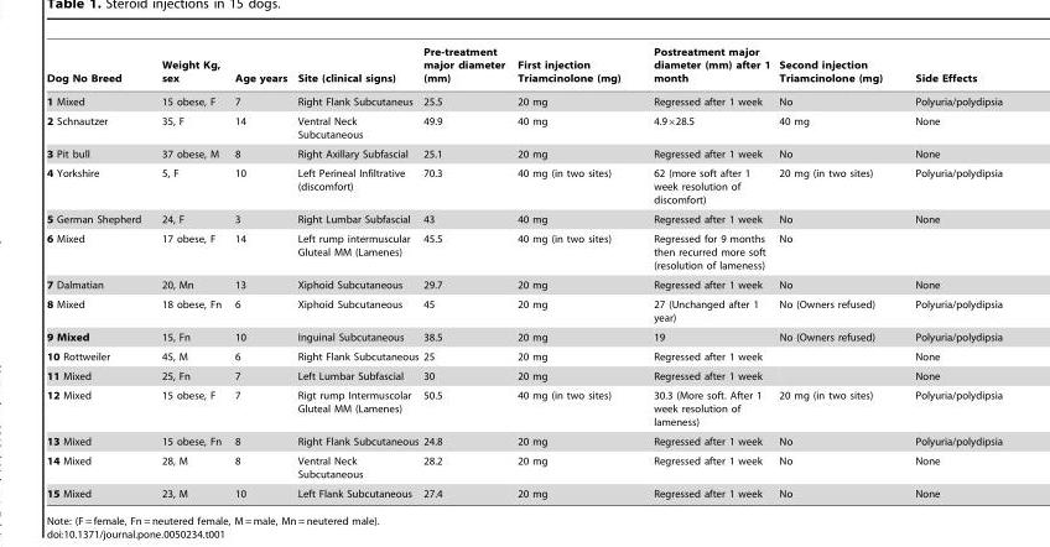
<table><thead><tr><td>Dog No Breed</td><td>Weight Kg, sex</td><td>Age years</td><td>Site (clinical signs)</td><td>Pre-treatment major diameter (mm)</td><td>First injection Triamcinolone (mg)</td><td>Postreatment major diameter (mm) after 1 month</td><td>Second injection Triamcinolone (mg)</td><td>Side Effects</td></tr></thead><tbody><tr><td>1 Mixed</td><td>15 obese, F</td><td>7</td><td>Right Flank Subcutaneus</td><td>25.5</td><td>20 mg</td><td>Regressed after 1 week</td><td>No</td><td>Polyuria/polydipsia</td></tr><tr><td>2 Schnautzer</td><td>35, F</td><td>14</td><td>Ventral Neck Subcutaneous</td><td>49.9</td><td>40 mg</td><td>4.9×28.5</td><td>40 mg</td><td>None</td></tr><tr><td>3 Pit bull</td><td>37 obese, M</td><td>8</td><td>Right Axillary Subfascial</td><td>25.1</td><td>20 mg</td><td>Regressed after 1 week</td><td>No</td><td>None</td></tr><tr><td>4 Yorkshire</td><td>5, F</td><td>10</td><td>Left Perineal Infiltrative (discomfort)</td><td>70.3</td><td>40 mg (in two sites)</td><td>62 (more soft after 1 week resolution of discomfort)</td><td>20 mg (in two sites)</td><td>Polyuria/polydipsia</td></tr><tr><td>5 German Shepherd</td><td>24, F</td><td>3</td><td>Right Lumbar Subfascial</td><td>43</td><td>40 mg</td><td>Regressed after 1 week</td><td>No</td><td>None</td></tr><tr><td>6 Mixed</td><td>17 obese, F</td><td>14</td><td>Left rump intermuscular Gluteal MM (Lamenes)</td><td>45.5</td><td>40 mg (in two sites)</td><td>Regressed for 9 months then recurred more soft (resolution of lameness)</td><td>No</td><td></td></tr><tr><td>7 Dalmatian</td><td>20, Mn</td><td>13</td><td>Xiphoid Subcutaneous</td><td>29.7</td><td>20 mg</td><td>Regressed after 1 week</td><td>No</td><td>None</td></tr><tr><td>8 Mixed</td><td>18 obese, Fn</td><td>6</td><td>Xiphoid Subcutaneous</td><td>45</td><td>20 mg</td><td>27 (Unchanged after 1 year)</td><td>No (Owners refused)</td><td>Polyuria/polydipsia</td></tr><tr><td>9 Mixed</td><td>15, Fn</td><td>10</td><td>Inguinal Subcutaneous</td><td>38.5</td><td>20 mg</td><td>19</td><td>No (Owners refused)</td><td>Polyuria/polydipsia</td></tr><tr><td>10 Rottweiler</td><td>45, M</td><td>6</td><td>Right Flank Subcutaneous</td><td>25</td><td>20 mg</td><td>Regressed after 1 week</td><td></td><td>None</td></tr><tr><td>11 Mixed</td><td>25, Fn</td><td>7</td><td>Left Lumbar Subfascial</td><td>30</td><td>20 mg</td><td>Regressed after 1 week</td><td></td><td>None</td></tr><tr><td>12 Mixed</td><td>15 obese, F</td><td>7</td><td>Rigt rump Intermuscolar Gluteal MM (Lamenes)</td><td>50.5</td><td>40 mg (in two sites)</td><td>30.3 (More soft. After 1 week resolution of lameness)</td><td>20 mg (in two sites)</td><td>Polyuria/polydipsia</td></tr><tr><td>13 Mixed</td><td>15 obese, Fn</td><td>8</td><td>Right Flank Subcutaneous</td><td>24.8</td><td>20 mg</td><td>Regressed after 1 week</td><td>No</td><td>Polyuria/polydipsia</td></tr><tr><td>14 Mixed</td><td>28, M</td><td>8</td><td>Ventral Neck Subcutaneous</td><td>28.2</td><td>20 mg</td><td>Regressed after 1 week</td><td>No</td><td>None</td></tr><tr><td>15 Mixed</td><td>23, M</td><td>10</td><td>Left Flank Subcutaneous</td><td>27.4</td><td>20 mg</td><td>Regressed after 1 week</td><td>No</td><td>None</td></tr></tbody></table>